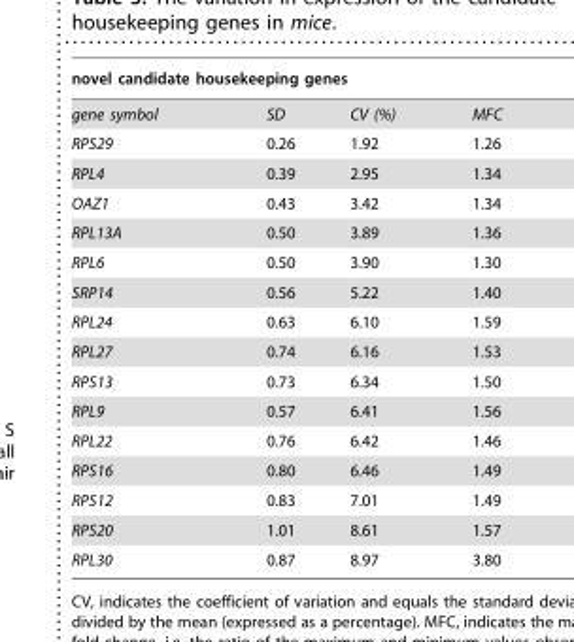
<table><thead><tr><td colspan="4">novel candidate housekeeping genes</td></tr><tr><td>gene symbol</td><td>SD</td><td>CV (%)</td><td>MFC</td></tr></thead><tbody><tr><td>RPS29</td><td>0.26</td><td>1.92</td><td>1.26</td></tr><tr><td>RPL4</td><td>0.39</td><td>2.95</td><td>1.34</td></tr><tr><td>OAZ1</td><td>0.43</td><td>3.42</td><td>1.34</td></tr><tr><td>RPL13A</td><td>0.50</td><td>3.89</td><td>1.36</td></tr><tr><td>RPL6</td><td>0.50</td><td>3.90</td><td>1.30</td></tr><tr><td>SRP14</td><td>0.56</td><td>5.22</td><td>1.40</td></tr><tr><td>RPL24</td><td>0.63</td><td>6.10</td><td>1.59</td></tr><tr><td>RPL27</td><td>0.74</td><td>6.16</td><td>1.53</td></tr><tr><td>RPS13</td><td>0.73</td><td>6.34</td><td>1.50</td></tr><tr><td>RPL9</td><td>0.57</td><td>6.41</td><td>1.56</td></tr><tr><td>RPL22</td><td>0.76</td><td>6.42</td><td>1.46</td></tr><tr><td>RPS16</td><td>0.80</td><td>6.46</td><td>1.49</td></tr><tr><td>RPS12</td><td>0.83</td><td>7.01</td><td>1.49</td></tr><tr><td>RPS20</td><td>1.01</td><td>8.61</td><td>1.57</td></tr><tr><td>RPL30</td><td>0.87</td><td>8.97</td><td>3.80</td></tr></tbody></table>